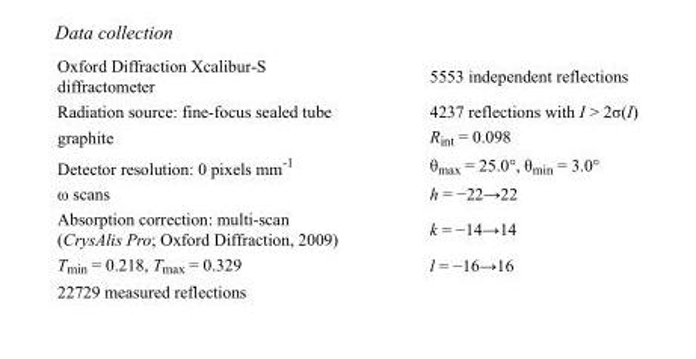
<table><tbody><tr><td>Oxford Diffraction Xcalibur-S diffractometer</td><td>5553 independent reflections</td></tr><tr><td>Radiation source: fine-focus sealed tube</td><td>4237 reflections with I &gt; 2σ(I)</td></tr><tr><td>graphite</td><td>R<sub>int</sub> = 0.098</td></tr><tr><td>Detector resolution: 0 pixels mm<sup>-1</sup></td><td>θ<sub>max</sub> = 25.0°, θ<sub>min</sub> = 3.0°</td></tr><tr><td>ω scans</td><td>h = −22→22</td></tr><tr><td>Absorption correction: multi-scan (CrysAlis Pro; Oxford Diffraction, 2009)</td><td>k = −14→14</td></tr><tr><td>T<sub>min</sub> = 0.218, T<sub>max</sub> = 0.329</td><td>l = −16→16</td></tr><tr><td>22729 measured reflections</td><td></td></tr></tbody></table>